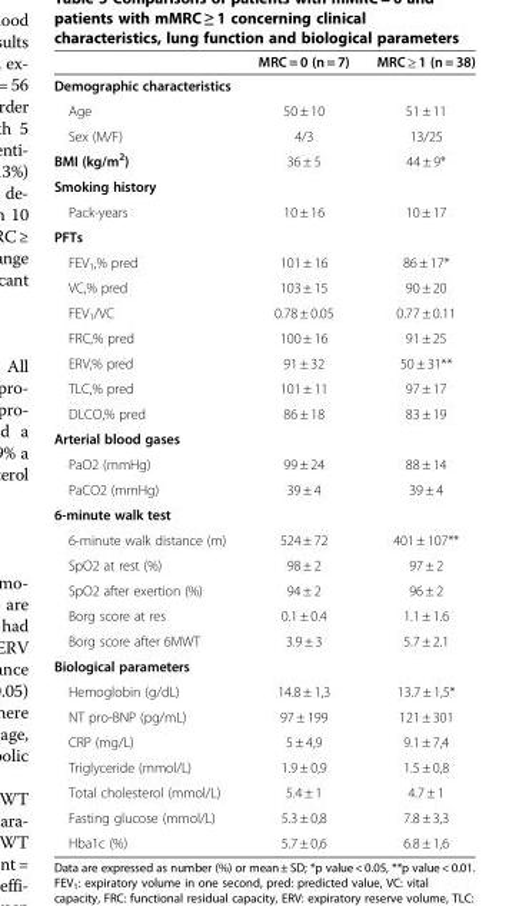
<table><thead><tr><td></td><td>MRC = 0 (n = 7)</td><td>MRC ≥ 1 (n = 38)</td></tr></thead><tbody><tr><td colspan="3">Demographic characteristics</td></tr><tr><td>Age</td><td>50 ± 10</td><td>51 ± 11</td></tr><tr><td>Sex (M/F)</td><td>4/3</td><td>13/25</td></tr><tr><td>BMI (kg/m<sup>2</sup>)</td><td>36 ± 5</td><td>44 ± 9*</td></tr><tr><td colspan="3">Smoking history</td></tr><tr><td>Pack-years</td><td>10 ± 16</td><td>10 ± 17</td></tr><tr><td colspan="3">PFTs</td></tr><tr><td>FEV<sub>1</sub>,% pred</td><td>101 ± 16</td><td>86 ± 17*</td></tr><tr><td>VC,% pred</td><td>103 ± 15</td><td>90 ± 20</td></tr><tr><td>FEV<sub>1</sub>/VC</td><td>0.78 ± 0.05</td><td>0.77 ± 0.11</td></tr><tr><td>FRC,% pred</td><td>100 ± 16</td><td>91 ± 25</td></tr><tr><td>ERV,% pred</td><td>91 ± 32</td><td>50 ± 31**</td></tr><tr><td>TLC,% pred</td><td>101 ± 11</td><td>97 ± 17</td></tr><tr><td>DLCO,% pred</td><td>86 ± 18</td><td>83 ± 19</td></tr><tr><td colspan="3">Arterial blood gases</td></tr><tr><td>PaO2 (mmHg)</td><td>99 ± 24</td><td>88 ± 14</td></tr><tr><td>PaCO2 (mmHg)</td><td>39 ± 4</td><td>39 ± 4</td></tr><tr><td colspan="3">6-minute walk test</td></tr><tr><td>6-minute walk distance (m)</td><td>524 ± 72</td><td>401 ± 107**</td></tr><tr><td>SpO2 at rest (%)</td><td>98 ± 2</td><td>97 ± 2</td></tr><tr><td>SpO2 after exertion (%)</td><td>94 ± 2</td><td>96 ± 2</td></tr><tr><td>Borg score at res</td><td>0.1 ± 0.4</td><td>1.1 ± 1.6</td></tr><tr><td>Borg score after 6MWT</td><td>3.9 ± 3</td><td>5.7 ± 2.1</td></tr><tr><td colspan="3">Biological parameters</td></tr><tr><td>Hemoglobin (g/dL)</td><td>14.8 ± 1,3</td><td>13.7 ± 1,5*</td></tr><tr><td>NT pro-BNP (pg/mL)</td><td>97 ± 199</td><td>121 ± 301</td></tr><tr><td>CRP (mg/L)</td><td>5 ± 4,9</td><td>9.1 ± 7,4</td></tr><tr><td>Triglyceride (mmol/L)</td><td>1.9 ± 0,9</td><td>1.5 ± 0,8</td></tr><tr><td>Total cholesterol (mmol/L)</td><td>5.4 ± 1</td><td>4.7 ± 1</td></tr><tr><td>Fasting glucose (mmol/L)</td><td>5.3 ± 0,8</td><td>7.8 ± 3,3</td></tr><tr><td>Hba1c (%)</td><td>5.7 ± 0,6</td><td>6.8 ± 1,6</td></tr></tbody></table>